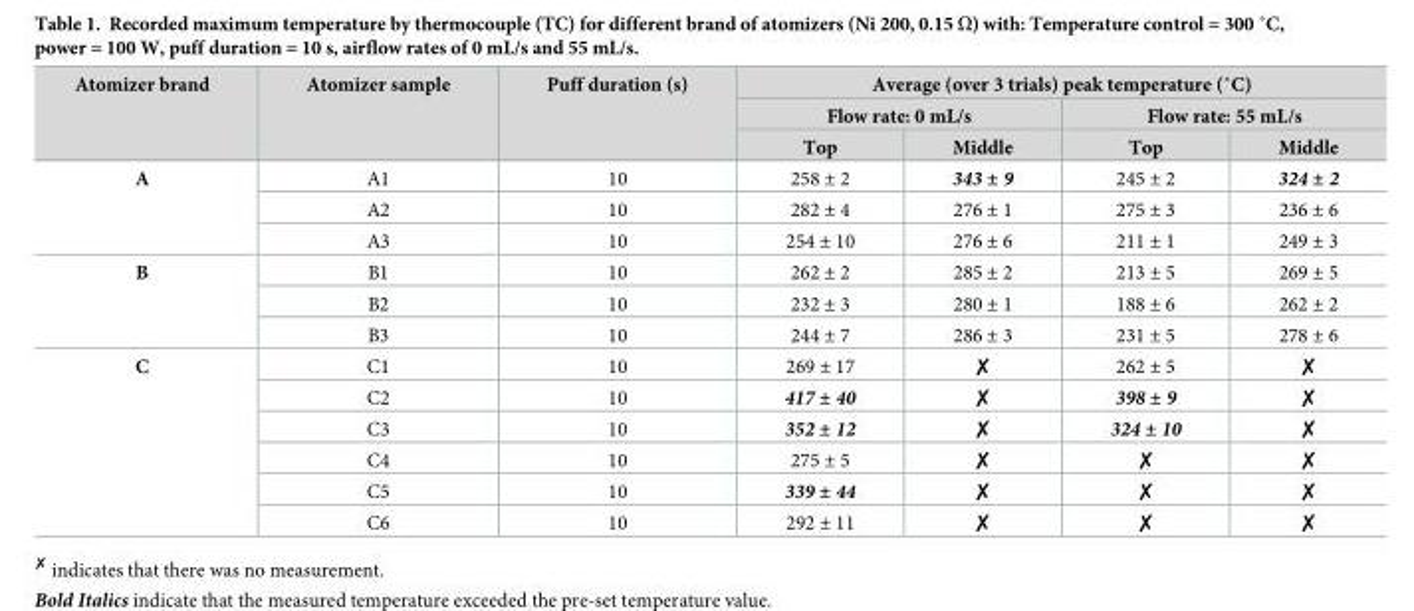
<table><thead><tr><td rowspan="3">Atomizer brand</td><td rowspan="3">Atomizer sample</td><td rowspan="3">Puff duration (s)</td><td colspan="4">Average (over 3 trials) peak temperature (˚C)</td></tr><tr><td colspan="2">Flow rate: 0 mL/s</td><td colspan="2">Flow rate: 55 mL/s</td></tr><tr><td>Top</td><td>Middle</td><td>Top</td><td>Middle</td></tr></thead><tbody><tr><td rowspan="3">A</td><td>A1</td><td>10</td><td>258 ± 2</td><td>343 ± 9</td><td>245 ± 2</td><td>324 ± 2</td></tr><tr><td>A2</td><td>10</td><td>282 ± 4</td><td>276 ± 1</td><td>275 ± 3</td><td>236 ± 6</td></tr><tr><td>A3</td><td>10</td><td>254 ± 10</td><td>276 ± 6</td><td>211 ± 1</td><td>249 ± 3</td></tr><tr><td rowspan="3">B</td><td>B1</td><td>10</td><td>262 ± 2</td><td>285 ± 2</td><td>213 ± 5</td><td>269 ± 5</td></tr><tr><td>B2</td><td>10</td><td>232 ± 3</td><td>280 ± 1</td><td>188 ± 6</td><td>262 ± 2</td></tr><tr><td>B3</td><td>10</td><td>244 ± 7</td><td>286 ± 3</td><td>231 ± 5</td><td>278 ± 6</td></tr><tr><td rowspan="6">C</td><td>C1</td><td>10</td><td>269 ± 17</td><td>✘</td><td>262 ± 5</td><td>✘</td></tr><tr><td>C2</td><td>10</td><td>417 ± 40</td><td>✘</td><td>398 ± 9</td><td>✘</td></tr><tr><td>C3</td><td>10</td><td>352 ± 12</td><td>✘</td><td>324 ± 10</td><td>✘</td></tr><tr><td>C4</td><td>10</td><td>275 ± 5</td><td>✘</td><td>✘</td><td>✘</td></tr><tr><td>C5</td><td>10</td><td>339 ± 44</td><td>✘</td><td>✘</td><td>✘</td></tr><tr><td>C6</td><td>10</td><td>292 ± 11</td><td>✘</td><td>✘</td><td>✘</td></tr></tbody></table>